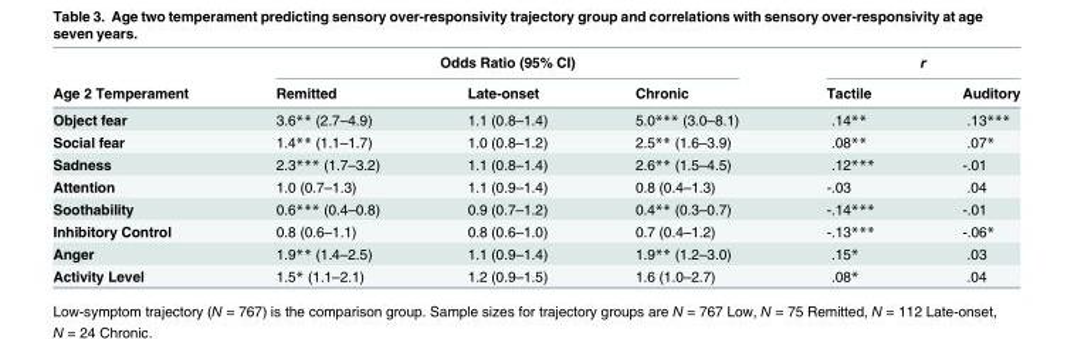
<table><thead><tr><td rowspan="2">Age 2 Temperament</td><td colspan="3">Odds Ratio (95% CI)</td><td colspan="2">r</td></tr><tr><td>Remitted</td><td>Late-onset</td><td>Chronic</td><td>Tactile</td><td>Auditory</td></tr></thead><tbody><tr><td>Object fear</td><td>3.6** (2.7–4.9)</td><td>1.1 (0.8–1.4)</td><td>5.0*** (3.0–8.1)</td><td>.14**</td><td>.13***</td></tr><tr><td>Social fear</td><td>1.4** (1.1–1.7)</td><td>1.0 (0.8–1.2)</td><td>2.5** (1.6–3.9)</td><td>.08**</td><td>.07*</td></tr><tr><td>Sadness</td><td>2.3*** (1.7–3.2)</td><td>1.1 (0.8–1.4)</td><td>2.6** (1.5–4.5)</td><td>.12***</td><td>-.01</td></tr><tr><td>Attention</td><td>1.0 (0.7–1.3)</td><td>1.1 (0.9–1.4)</td><td>0.8 (0.4–1.3)</td><td>-.03</td><td>.04</td></tr><tr><td>Soothability</td><td>0.6*** (0.4–0.8)</td><td>0.9 (0.7–1.2)</td><td>0.4** (0.3–0.7)</td><td>-.14***</td><td>-.01</td></tr><tr><td>Inhibitory Control</td><td>0.8 (0.6–1.1)</td><td>0.8 (0.6–1.0)</td><td>0.7 (0.4–1.2)</td><td>-.13***</td><td>-.06*</td></tr><tr><td>Anger</td><td>1.9** (1.4–2.5)</td><td>1.1 (0.9–1.4)</td><td>1.9** (1.2–3.0)</td><td>.15*</td><td>.03</td></tr><tr><td>Activity Level</td><td>1.5* (1.1–2.1)</td><td>1.2 (0.9–1.5)</td><td>1.6 (1.0–2.7)</td><td>.08*</td><td>.04</td></tr></tbody></table>